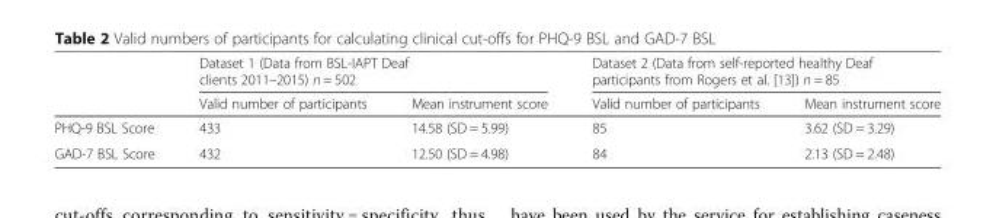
<table><thead><tr><td rowspan="2"></td><td colspan="2">Dataset 1 (Data from BSL-IAPT Deaf clients 2011–2015) n = 502</td><td colspan="2">Dataset 2 (Data from self-reported healthy Deaf participants from Rogers et al. [13]) n = 85</td></tr><tr><td>Valid number of participants</td><td>Mean instrument score</td><td>Valid number of participants</td><td>Mean instrument score</td></tr></thead><tbody><tr><td>PHQ-9 BSL Score</td><td>433</td><td>14.58 (SD = 5.99)</td><td>85</td><td>3.62 (SD = 3.29)</td></tr><tr><td>GAD-7 BSL Score</td><td>432</td><td>12.50 (SD = 4.98)</td><td>84</td><td>2.13 (SD = 2.48)</td></tr></tbody></table>